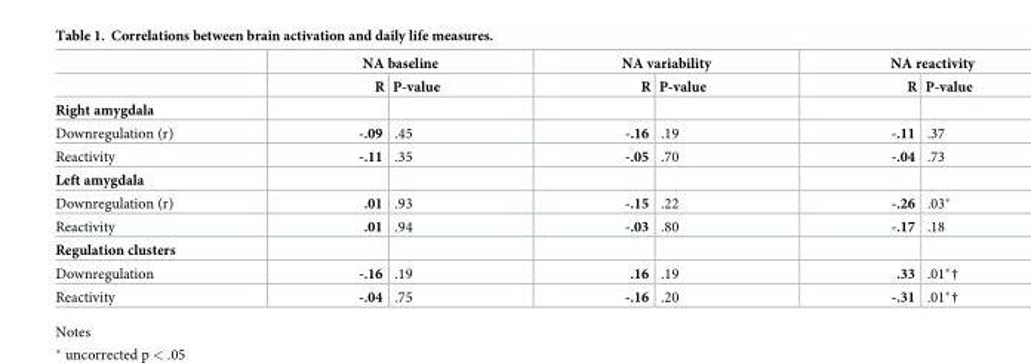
<table><thead><tr><td rowspan="2"></td><td colspan="2">NA baseline</td><td colspan="2">NA variability</td><td colspan="2">NA reactivity</td></tr><tr><td>R</td><td>P-value</td><td>R</td><td>P-value</td><td>R</td><td>P-value</td></tr></thead><tbody><tr><td colspan="7">Right amygdala</td></tr><tr><td>Downregulation (r)</td><td>-.09</td><td>.45</td><td>-.16</td><td>.19</td><td>-.11</td><td>.37</td></tr><tr><td>Reactivity</td><td>-.11</td><td>.35</td><td>-.05</td><td>.70</td><td>-.04</td><td>.73</td></tr><tr><td colspan="7">Left amygdala</td></tr><tr><td>Downregulation (r)</td><td>.01</td><td>.93</td><td>-.15</td><td>.22</td><td>-.26</td><td>.03*</td></tr><tr><td>Reactivity</td><td>.01</td><td>.94</td><td>-.03</td><td>.80</td><td>-.17</td><td>.18</td></tr><tr><td colspan="7">Regulation clusters</td></tr><tr><td>Downregulation</td><td>-.16</td><td>.19</td><td>.16</td><td>.19</td><td>.33</td><td>.01*†</td></tr><tr><td>Reactivity</td><td>-.04</td><td>.75</td><td>-.16</td><td>.20</td><td>-.31</td><td>.01*†</td></tr></tbody></table>